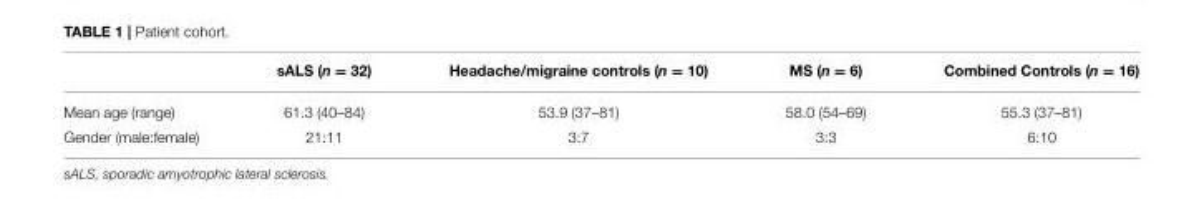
<table><thead><tr><td></td><td>sALS (n = 32)</td><td>Headache/migraine controls (n = 10)</td><td>MS (n = 6)</td><td>Combined Controls (n = 16)</td></tr></thead><tbody><tr><td>Mean age (range)</td><td>61.3 (40–84)</td><td>53.9 (37–81)</td><td>58.0 (54–69)</td><td>55.3 (37–81)</td></tr><tr><td>Gender (male:female)</td><td>21:11</td><td>3:7</td><td>3:3</td><td>6:10</td></tr></tbody></table>